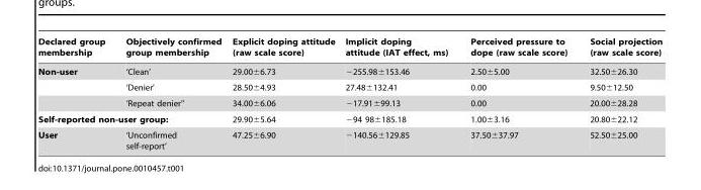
<table><thead><tr><td>Declared group membership</td><td>Objectively confirmed group membership</td><td>Explicit doping attitude (raw scale score)</td><td>Implicit doping attitude (IAT effect, ms)</td><td>Perceived pressure to dope (raw scale score)</td><td>Social projection (raw scale score)</td></tr></thead><tbody><tr><td rowspan="3">Non-user</td><td>‘Clean’</td><td>29.00±6.73</td><td>−255.98±153.46</td><td>2.50±5.00</td><td>32.50±26.30</td></tr><tr><td>‘Denier’</td><td>28.50±4.93</td><td>27.48±132.41</td><td>0.00</td><td>9.50±12.50</td></tr><tr><td>‘Repeat denier’’</td><td>34.00±6.06</td><td>−17.91±99.13</td><td>0.00</td><td>20.00±28.28</td></tr><tr><td colspan="2">Self-reported non-user group:</td><td>29.90±5.64</td><td>−94 98±185.18</td><td>1.00±3.16</td><td>20.80±22.12</td></tr><tr><td>User</td><td>‘Unconfirmed self-report’</td><td>47.25±6.90</td><td>−140.56±129.85</td><td>37.50±37.97</td><td>52.50±25.00</td></tr></tbody></table>